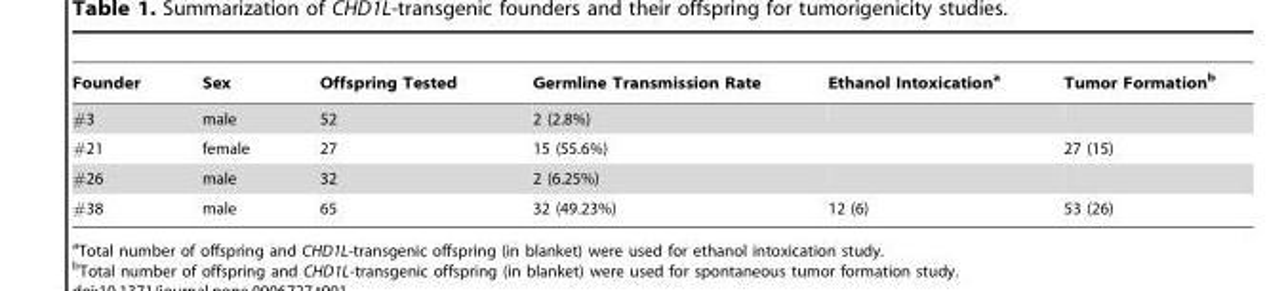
<table><thead><tr><td>Founder</td><td>Sex</td><td>Offspring Tested</td><td>Germline Transmission Rate</td><td>Ethanol Intoxication<sup>a</sup></td><td>Tumor Formation<sup>b</sup></td></tr></thead><tbody><tr><td>#3</td><td>male</td><td>52</td><td>2 (2.8%)</td><td></td><td></td></tr><tr><td>#21</td><td>female</td><td>27</td><td>15 (55.6%)</td><td></td><td>27 (15)</td></tr><tr><td>#26</td><td>male</td><td>32</td><td>2 (6.25%)</td><td></td><td></td></tr><tr><td>#38</td><td>male</td><td>65</td><td>32 (49.23%)</td><td>12 (6)</td><td>53 (26)</td></tr></tbody></table>